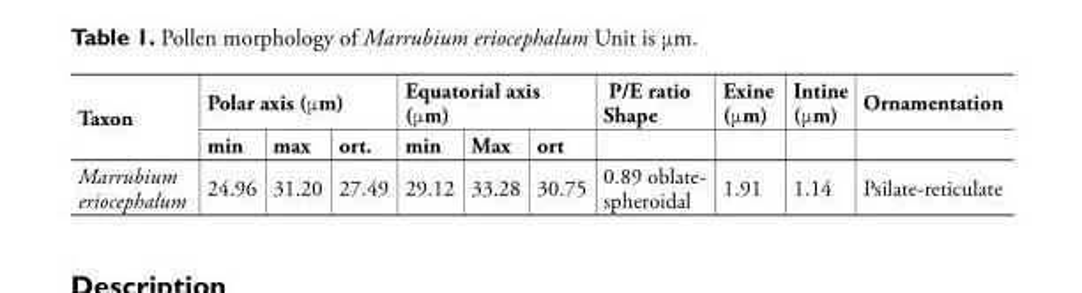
<table><thead><tr><td rowspan="2">Taxon</td><td colspan="3">Polar axis (μm)</td><td colspan="3">Equatorial axis (μm)</td><td rowspan="2">P/E ratio Shape</td><td rowspan="2">Exine (μm)</td><td rowspan="2">Intine (μm)</td><td rowspan="2">Ornamentation</td></tr><tr><td>min</td><td>max</td><td>ort.</td><td>min</td><td>Max</td><td>ort</td></tr></thead><tbody><tr><td>Marrubium eriocephalum</td><td>24.96</td><td>31.20</td><td>27.49</td><td>29.12</td><td>33.28</td><td>30.75</td><td>0.89 oblate- spheroidal</td><td>1.91</td><td>1.14</td><td>Psilate-reticulate</td></tr></tbody></table>